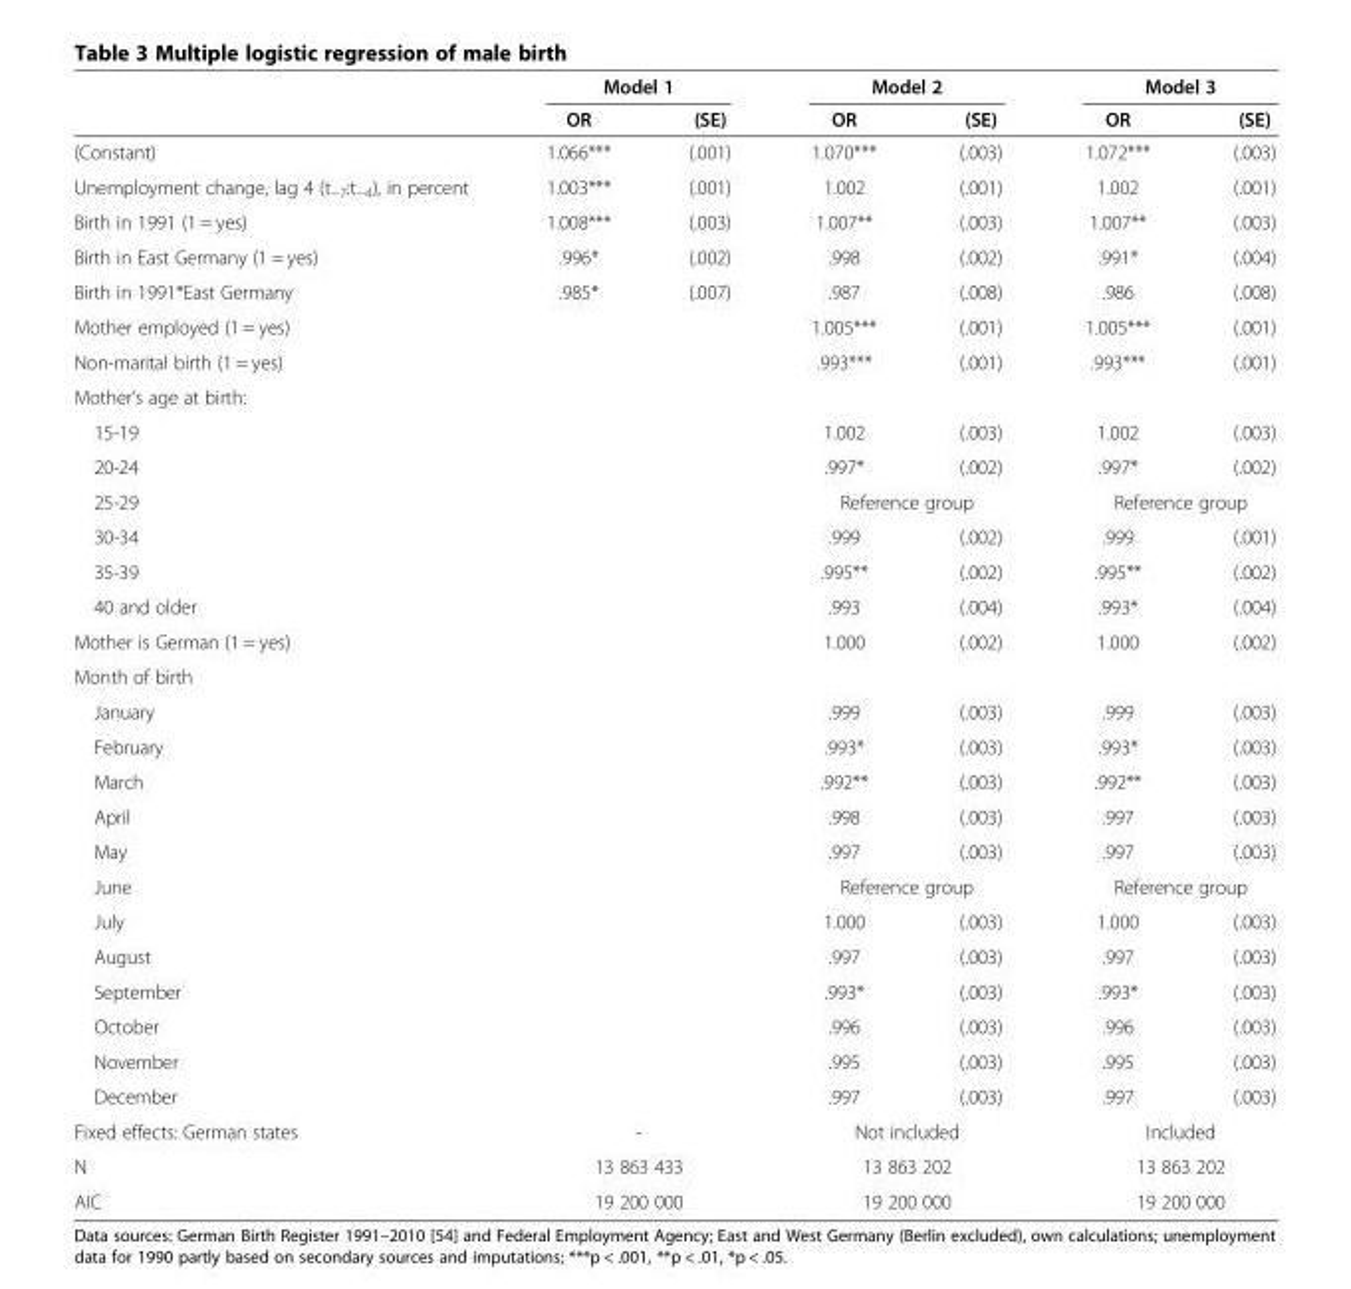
<table><thead><tr><td rowspan="2"></td><td colspan="2">Model 1</td><td colspan="2">Model 2</td><td colspan="2">Model 3</td></tr><tr><td>OR</td><td>(SE)</td><td>OR</td><td>(SE)</td><td>OR</td><td>(SE)</td></tr></thead><tbody><tr><td>(Constant)</td><td>1.066***</td><td>(.001)</td><td>1.070***</td><td>(.003)</td><td>1.072***</td><td>(.003)</td></tr><tr><td>Unemployment change, lag 4 (t<sub>−7</sub>:t<sub>−4</sub>), in percent</td><td>1.003***</td><td>(.001)</td><td>1.002</td><td>(.001)</td><td>1.002</td><td>(.001)</td></tr><tr><td>Birth in 1991 (1 = yes)</td><td>1.008***</td><td>(.003)</td><td>1.007**</td><td>(.003)</td><td>1.007**</td><td>(.003)</td></tr><tr><td>Birth in East Germany (1 = yes)</td><td>.996*</td><td>(.002)</td><td>.998</td><td>(.002)</td><td>.991*</td><td>(.004)</td></tr><tr><td>Birth in 1991*East Germany</td><td>.985*</td><td>(.007)</td><td>.987</td><td>(.008)</td><td>.986</td><td>(.008)</td></tr><tr><td>Mother employed (1 = yes)</td><td></td><td></td><td>1.005***</td><td>(.001)</td><td>1.005***</td><td>(.001)</td></tr><tr><td>Non-marital birth (1 = yes)</td><td></td><td></td><td>.993***</td><td>(.001)</td><td>.993***</td><td>(.001)</td></tr><tr><td colspan="7">Mother’s age at birth:</td></tr><tr><td>15-19</td><td></td><td></td><td>1.002</td><td>(.003)</td><td>1.002</td><td>(.003)</td></tr><tr><td>20-24</td><td></td><td></td><td>.997*</td><td>(.002)</td><td>.997*</td><td>(.002)</td></tr><tr><td>25-29</td><td></td><td></td><td colspan="2">Reference group</td><td colspan="2">Reference group</td></tr><tr><td>30-34</td><td></td><td></td><td>.999</td><td>(.002)</td><td>.999</td><td>(.001)</td></tr><tr><td>35-39</td><td></td><td></td><td>.995**</td><td>(.002)</td><td>.995**</td><td>(.002)</td></tr><tr><td>40 and older</td><td></td><td></td><td>.993</td><td>(.004)</td><td>.993*</td><td>(.004)</td></tr><tr><td>Mother is German (1 = yes)</td><td></td><td></td><td>1.000</td><td>(.002)</td><td>1.000</td><td>(.002)</td></tr><tr><td colspan="7">Month of birth</td></tr><tr><td>January</td><td></td><td></td><td>.999</td><td>(.003)</td><td>.999</td><td>(.003)</td></tr><tr><td>February</td><td></td><td></td><td>.993*</td><td>(.003)</td><td>.993*</td><td>(.003)</td></tr><tr><td>March</td><td></td><td></td><td>.992**</td><td>(.003)</td><td>.992**</td><td>(.003)</td></tr><tr><td>April</td><td></td><td></td><td>.998</td><td>(.003)</td><td>.997</td><td>(.003)</td></tr><tr><td>May</td><td></td><td></td><td>.997</td><td>(.003)</td><td>.997</td><td>(.003)</td></tr><tr><td>June</td><td></td><td></td><td colspan="2">Reference group</td><td colspan="2">Reference group</td></tr><tr><td>July</td><td></td><td></td><td>1.000</td><td>(.003)</td><td>1.000</td><td>(.003)</td></tr><tr><td>August</td><td></td><td></td><td>.997</td><td>(.003)</td><td>.997</td><td>(.003)</td></tr><tr><td>September</td><td></td><td></td><td>.993*</td><td>(.003)</td><td>.993*</td><td>(.003)</td></tr><tr><td>October</td><td></td><td></td><td>.996</td><td>(.003)</td><td>.996</td><td>(.003)</td></tr><tr><td>November</td><td></td><td></td><td>.995</td><td>(.003)</td><td>.995</td><td>(.003)</td></tr><tr><td>December</td><td></td><td></td><td>.997</td><td>(.003)</td><td>.997</td><td>(.003)</td></tr><tr><td>Fixed effects: German states</td><td colspan="2">-</td><td colspan="2">Not included</td><td colspan="2">Included</td></tr><tr><td>N</td><td colspan="2">13 863 433</td><td colspan="2">13 863 202</td><td colspan="2">13 863 202</td></tr><tr><td>AIC</td><td colspan="2">19 200 000</td><td colspan="2">19 200 000</td><td colspan="2">19 200 000</td></tr></tbody></table>